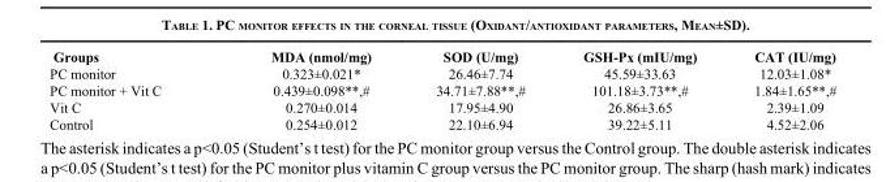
<table><thead><tr><td>Groups</td><td>MDA (nmol/mg)</td><td>SOD (U/mg)</td><td>GSH-Px (mIU/mg)</td><td>CAT (IU/mg)</td></tr></thead><tbody><tr><td>PC monitor</td><td>0.323±0.021*</td><td>26.46±7.74</td><td>45.59±33.63</td><td>12.03±1.08*</td></tr><tr><td>PC monitor + Vit C</td><td>0.439±0.098**,#</td><td>34.71±7.88**,#</td><td>101.18±3.73**,#</td><td>1.84±1.65**,#</td></tr><tr><td>Vit C</td><td>0.270±0.014</td><td>17.95±4.90</td><td>26.86±3.65</td><td>2.39±1.09</td></tr><tr><td>Control</td><td>0.254±0.012</td><td>22.10±6.94</td><td>39.22±5.11</td><td>4.52±2.06</td></tr></tbody></table>